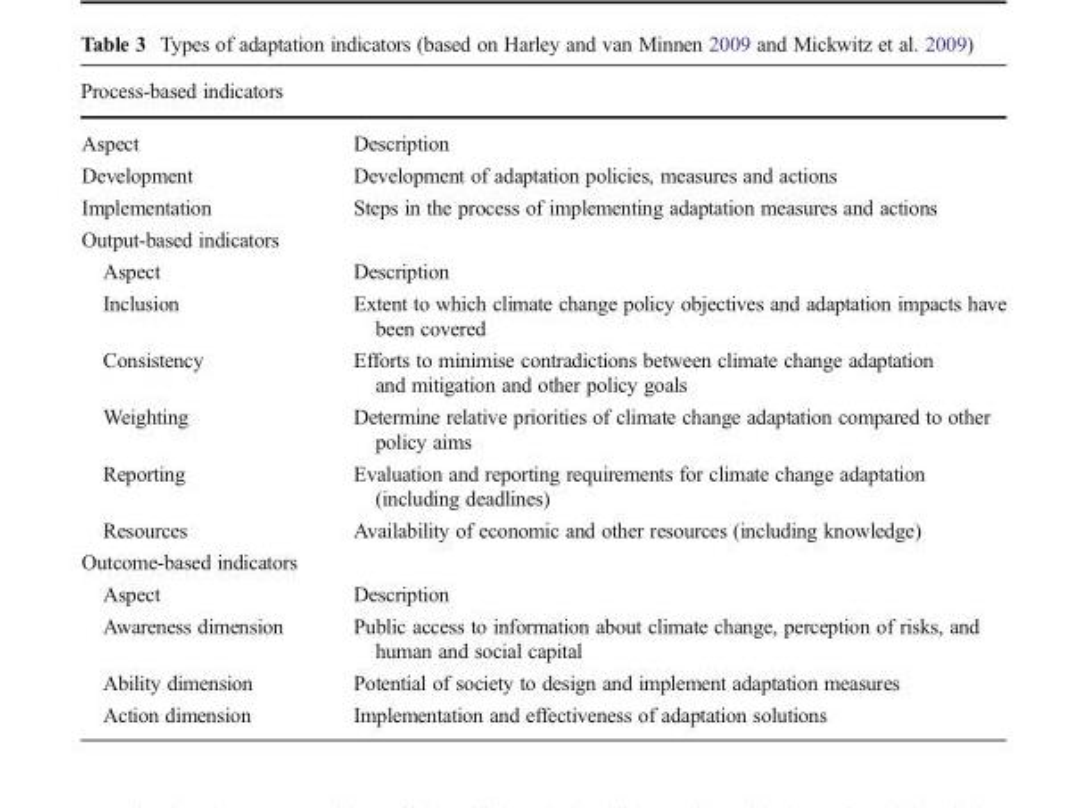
<table><thead><tr><td colspan="2">Process-based indicators</td></tr><tr><td>Aspect</td><td>Description</td></tr></thead><tbody><tr><td>Development</td><td>Development of adaptation policies, measures and actions</td></tr><tr><td>Implementation</td><td>Steps in the process of implementing adaptation measures and actions</td></tr><tr><td colspan="2">Output-based indicators</td></tr><tr><td>Aspect</td><td>Description</td></tr><tr><td>Inclusion</td><td>Extent to which climate change policy objectives and adaptation impacts have been covered</td></tr><tr><td>Consistency</td><td>Efforts to minimise contradictions between climate change adaptation and mitigation and other policy goals</td></tr><tr><td>Weighting</td><td>Determine relative priorities of climate change adaptation compared to other policy aims</td></tr><tr><td>Reporting</td><td>Evaluation and reporting requirements for climate change adaptation (including deadlines)</td></tr><tr><td>Resources</td><td>Availability of economic and other resources (including knowledge)</td></tr><tr><td colspan="2">Outcome-based indicators</td></tr><tr><td>Aspect</td><td>Description</td></tr><tr><td>Awareness dimension</td><td>Public access to information about climate change, perception of risks, and human and social capital</td></tr><tr><td>Ability dimension</td><td>Potential of society to design and implement adaptation measures</td></tr><tr><td>Action dimension</td><td>Implementation and effectiveness of adaptation solutions</td></tr></tbody></table>